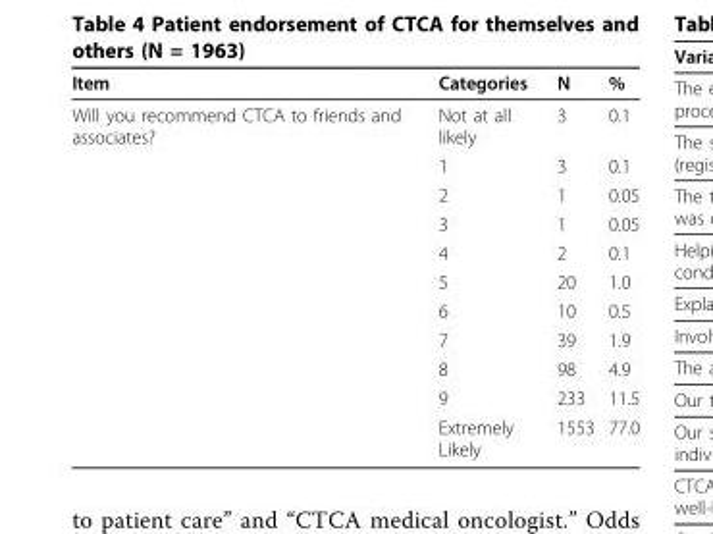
<table><thead><tr><td>Item</td><td>Categories</td><td>N</td><td>%</td></tr></thead><tbody><tr><td rowspan="11">Will you recommend CTCA to friends and associates?</td><td>Not at all likely</td><td>3</td><td>0.1</td></tr><tr><td>1</td><td>3</td><td>0.1</td></tr><tr><td>2</td><td>1</td><td>0.05</td></tr><tr><td>3</td><td>1</td><td>0.05</td></tr><tr><td>4</td><td>2</td><td>0.1</td></tr><tr><td>5</td><td>20</td><td>1.0</td></tr><tr><td>6</td><td>10</td><td>0.5</td></tr><tr><td>7</td><td>39</td><td>1.9</td></tr><tr><td>8</td><td>98</td><td>4.9</td></tr><tr><td>9</td><td>233</td><td>11.5</td></tr><tr><td>Extremely Likely</td><td>1553</td><td>77.0</td></tr></tbody></table>